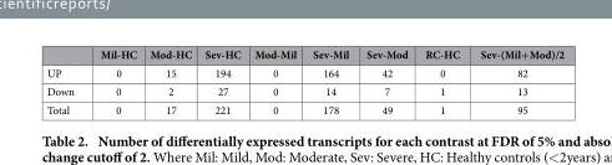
<table><thead><tr><td></td><td>Mil-HC</td><td>Mod-HC</td><td>Sev-HC</td><td>Mod-Mil</td><td>Sev-Mil</td><td>Sev-Mod</td><td>RC-HC</td><td>Sev-(Mil+Mod)/2</td></tr></thead><tbody><tr><td>UP</td><td>0</td><td>15</td><td>194</td><td>0</td><td>164</td><td>42</td><td>0</td><td>82</td></tr><tr><td>Down</td><td>0</td><td>2</td><td>27</td><td>0</td><td>14</td><td>7</td><td>1</td><td>13</td></tr><tr><td>Total</td><td>0</td><td>17</td><td>221</td><td>0</td><td>178</td><td>49</td><td>1</td><td>95</td></tr></tbody></table>